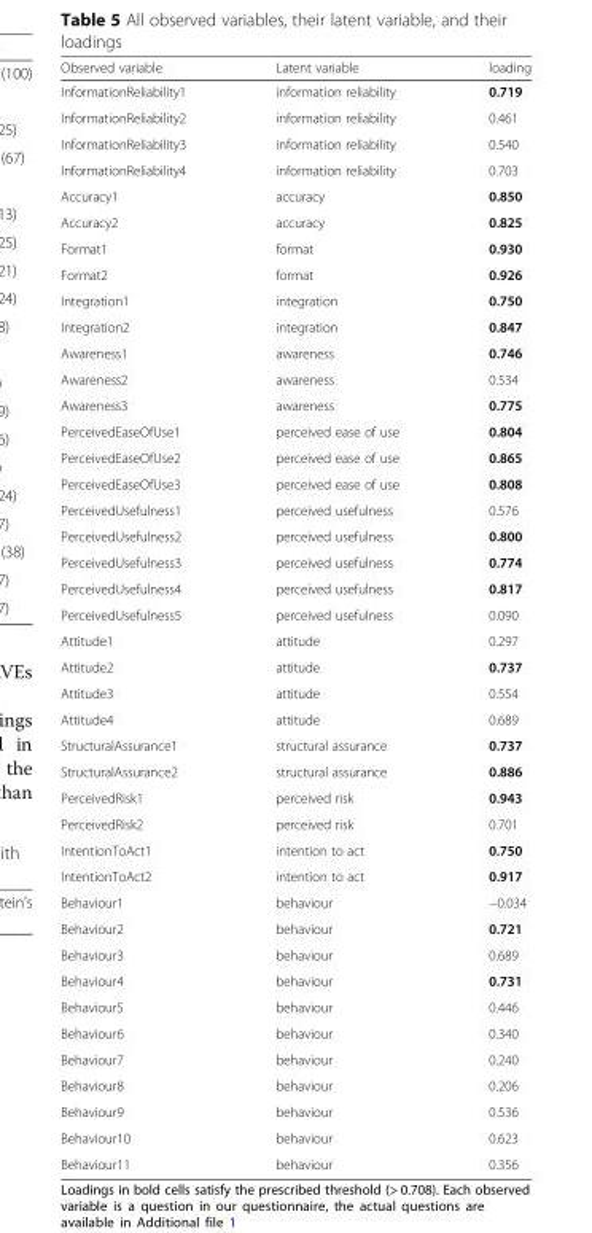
<table><thead><tr><td>Observed variable</td><td>Latent variable</td><td>loading</td></tr></thead><tbody><tr><td>InformationReliability1</td><td>information reliability</td><td>0.719</td></tr><tr><td>InformationReliability2</td><td>information reliability</td><td>0.461</td></tr><tr><td>InformationReliability3</td><td>information reliability</td><td>0.540</td></tr><tr><td>InformationReliability4</td><td>information reliability</td><td>0.703</td></tr><tr><td>Accuracy1</td><td>accuracy</td><td>0.850</td></tr><tr><td>Accuracy2</td><td>accuracy</td><td>0.825</td></tr><tr><td>Format1</td><td>format</td><td>0.930</td></tr><tr><td>Format2</td><td>format</td><td>0.926</td></tr><tr><td>Integration1</td><td>integration</td><td>0.750</td></tr><tr><td>Integration2</td><td>integration</td><td>0.847</td></tr><tr><td>Awareness1</td><td>awareness</td><td>0.746</td></tr><tr><td>Awareness2</td><td>awareness</td><td>0.534</td></tr><tr><td>Awareness3</td><td>awareness</td><td>0.775</td></tr><tr><td>PerceivedEaseOfUse1</td><td>perceived ease of use</td><td>0.804</td></tr><tr><td>PerceivedEaseOfUse2</td><td>perceived ease of use</td><td>0.865</td></tr><tr><td>PerceivedEaseOfUse3</td><td>perceived ease of use</td><td>0.808</td></tr><tr><td>PerceivedUsefulness1</td><td>perceived usefulness</td><td>0.576</td></tr><tr><td>PerceivedUsefulness2</td><td>perceived usefulness</td><td>0.800</td></tr><tr><td>PerceivedUsefulness3</td><td>perceived usefulness</td><td>0.774</td></tr><tr><td>PerceivedUsefulness4</td><td>perceived usefulness</td><td>0.817</td></tr><tr><td>PerceivedUsefulness5</td><td>perceived usefulness</td><td>0.090</td></tr><tr><td>Attitude1</td><td>attitude</td><td>0.297</td></tr><tr><td>Attitude2</td><td>attitude</td><td>0.737</td></tr><tr><td>Attitude3</td><td>attitude</td><td>0.554</td></tr><tr><td>Attitude4</td><td>attitude</td><td>0.689</td></tr><tr><td>StructuralAssurance1</td><td>structural assurance</td><td>0.737</td></tr><tr><td>StructuralAssurance2</td><td>structural assurance</td><td>0.886</td></tr><tr><td>PerceivedRisk1</td><td>perceived risk</td><td>0.943</td></tr><tr><td>PerceivedRisk2</td><td>perceived risk</td><td>0.701</td></tr><tr><td>IntentionToAct1</td><td>intention to act</td><td>0.750</td></tr><tr><td>IntentionToAct2</td><td>intention to act</td><td>0.917</td></tr><tr><td>Behaviour1</td><td>behaviour</td><td>−0.034</td></tr><tr><td>Behaviour2</td><td>behaviour</td><td>0.721</td></tr><tr><td>Behaviour3</td><td>behaviour</td><td>0.689</td></tr><tr><td>Behaviour4</td><td>behaviour</td><td>0.731</td></tr><tr><td>Behaviour5</td><td>behaviour</td><td>0.446</td></tr><tr><td>Behaviour6</td><td>behaviour</td><td>0.340</td></tr><tr><td>Behaviour7</td><td>behaviour</td><td>0.240</td></tr><tr><td>Behaviour8</td><td>behaviour</td><td>0.206</td></tr><tr><td>Behaviour9</td><td>behaviour</td><td>0.536</td></tr><tr><td>Behaviour10</td><td>behaviour</td><td>0.623</td></tr><tr><td>Behaviour11</td><td>behaviour</td><td>0.356</td></tr></tbody></table>